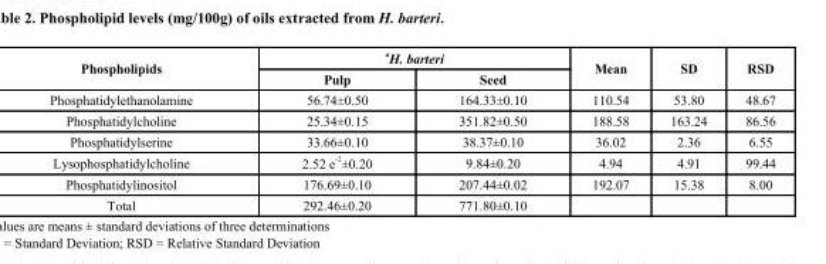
<table><thead><tr><td rowspan="2">Phospholipids</td><td colspan="2"><sup>a</sup>H. barteri</td><td rowspan="2">Mean</td><td rowspan="2">SD</td><td rowspan="2">RSD</td></tr><tr><td>Pulp</td><td>Seed</td></tr></thead><tbody><tr><td>Phosphatidylethanolamine</td><td>56.74±0.50</td><td>164.33±0.10</td><td>110.54</td><td>53.80</td><td>48.67</td></tr><tr><td>Phosphatidylcholine</td><td>25.34±0.15</td><td>351.82±0.50</td><td>188.58</td><td>163.24</td><td>86.56</td></tr><tr><td>Phosphatidylserine</td><td>33.66±0.10</td><td>38.37±0.10</td><td>36.02</td><td>2.36</td><td>6.55</td></tr><tr><td>Lysophosphatidylcholine</td><td>2.52 e <sup>-2</sup>±0.20</td><td>9.84±0.20</td><td>4.94</td><td>4.91</td><td>99.44</td></tr><tr><td>Phosphatidylinositol</td><td>176.69±0.10</td><td>207.44±0.02</td><td>192.07</td><td>15.38</td><td>8.00</td></tr><tr><td>Total</td><td>292.46±0.20</td><td>771.80±0.10</td><td></td><td></td><td></td></tr></tbody></table>